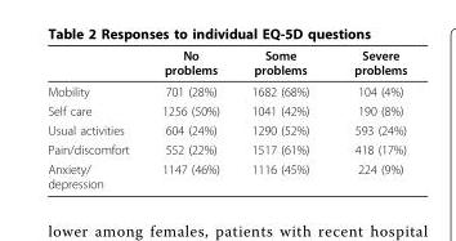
<table><thead><tr><td></td><td>No problems</td><td>Some problems</td><td>Severe problems</td></tr></thead><tbody><tr><td>Mobility</td><td>701 (28%)</td><td>1682 (68%)</td><td>104 (4%)</td></tr><tr><td>Self care</td><td>1256 (50%)</td><td>1041 (42%)</td><td>190 (8%)</td></tr><tr><td>Usual activities</td><td>604 (24%)</td><td>1290 (52%)</td><td>593 (24%)</td></tr><tr><td>Pain/discomfort</td><td>552 (22%)</td><td>1517 (61%)</td><td>418 (17%)</td></tr><tr><td>Anxiety/ depression</td><td>1147 (46%)</td><td>1116 (45%)</td><td>224 (9%)</td></tr></tbody></table>